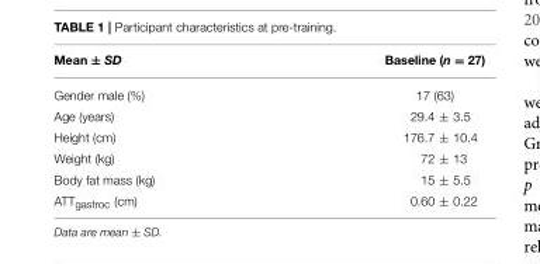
<table><thead><tr><td>Mean ± SD</td><td>Baseline (n = 27)</td></tr></thead><tbody><tr><td>Gender male (%)</td><td>17 (63)</td></tr><tr><td>Age (years)</td><td>29.4 ± 3.5</td></tr><tr><td>Height (cm)</td><td>176.7 ± 10.4</td></tr><tr><td>Weight (kg)</td><td>72 ± 13</td></tr><tr><td>Body fat mass (kg)</td><td>15 ± 5.5</td></tr><tr><td>ATT<sub>gastroc</sub> (cm)</td><td>0.60 ± 0.22</td></tr></tbody></table>